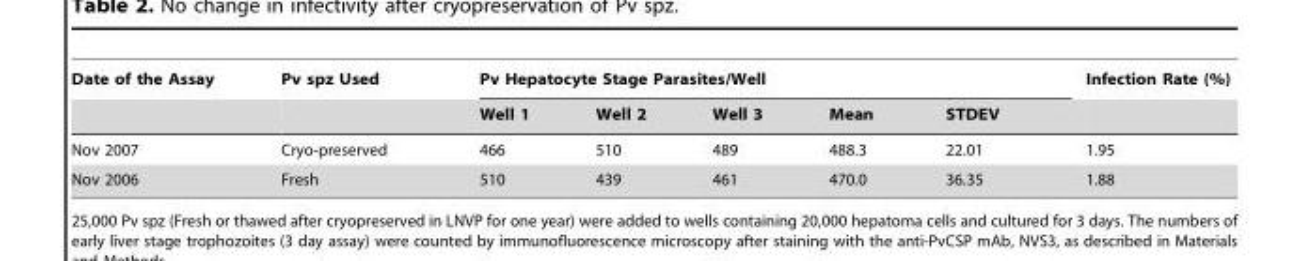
<table><thead><tr><td rowspan="2">Date of the Assay</td><td rowspan="2">Pv spz Used</td><td colspan="5">Pv Hepatocyte Stage Parasites/Well</td><td rowspan="2">Infection Rate (%)</td></tr><tr><td>Well 1</td><td>Well 2</td><td>Well 3</td><td>Mean</td><td>STDEV</td></tr></thead><tbody><tr><td>Nov 2007</td><td>Cryo-preserved</td><td>466</td><td>510</td><td>489</td><td>488.3</td><td>22.01</td><td>1.95</td></tr><tr><td>Nov 2006</td><td>Fresh</td><td>510</td><td>439</td><td>461</td><td>470.0</td><td>36.35</td><td>1.88</td></tr></tbody></table>